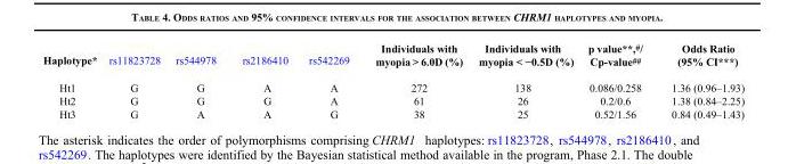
<table><tbody><tr><td>Haplotype*</td><td>rs11823728</td><td>rs544978</td><td>rs2186410</td><td>rs542269</td><td>Individuals with myopia &gt; 6.0D (%)</td><td>Individuals with myopia &lt; −0.5D (%)</td><td>p value**,<sup>#</sup>/ Cp-value<sup>##</sup></td><td>Odds Ratio (95% CI***)</td></tr><tr><td>Ht1</td><td>G</td><td>G</td><td>A</td><td>A</td><td>272</td><td>138</td><td>0.086/0.258</td><td>1.36 (0.96–1.93)</td></tr><tr><td>Ht2</td><td>G</td><td>G</td><td>G</td><td>A</td><td>61</td><td>26</td><td>0.2/0.6</td><td>1.38 (0.84–2.25)</td></tr><tr><td>Ht3</td><td>G</td><td>A</td><td>A</td><td>G</td><td>38</td><td>25</td><td>0.52/1.56</td><td>0.84 (0.49–1.43)</td></tr></tbody></table>